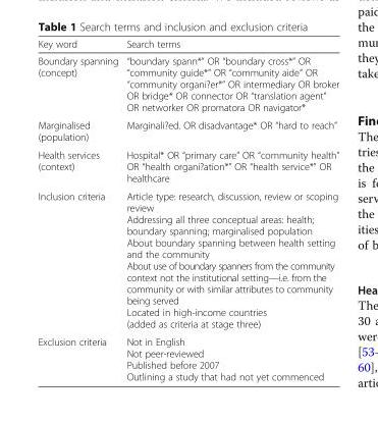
<table><thead><tr><td>Key word</td><td>Search terms</td></tr></thead><tbody><tr><td>Boundary spanning (concept)</td><td>“boundary spann*” OR “boundary cross*” OR “community guide*” OR “community aide” OR “community organi?er*” OR intermediary OR broker OR bridge* OR connector OR “translation agent” OR networker OR promatora OR navigator*</td></tr><tr><td>Marginalised (population)</td><td>Marginali?ed. OR disadvantage* OR “hard to reach”</td></tr><tr><td>Health services (context)</td><td>Hospital* OR “primary care” OR “community health” OR “health organi?ation*” OR “health service*” OR healthcare</td></tr><tr><td>Inclusion criteria</td><td>Article type: research, discussion, review or scoping review Addressing all three conceptual areas: health; boundary spanning; marginalised population About boundary spanning between health setting and the community About use of boundary spanners from the community context not the institutional setting—i.e. from the community or with similar attributes to community being served Located in high-income countries (added as criteria at stage three)</td></tr><tr><td>Exclusion criteria</td><td>Not in English Not peer-reviewed Published before 2007 Outlining a study that had not yet commenced</td></tr></tbody></table>